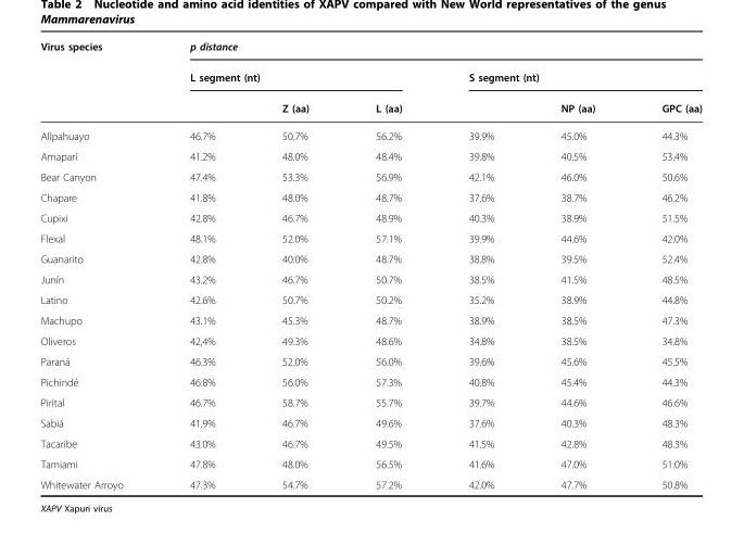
<table><thead><tr><td rowspan="3">Virus species</td><td colspan="6">p distance</td></tr><tr><td colspan="3">L segment (nt)</td><td colspan="3">S segment (nt)</td></tr><tr><td></td><td>Z (aa)</td><td>L (aa)</td><td></td><td>NP (aa)</td><td>GPC (aa)</td></tr></thead><tbody><tr><td>Allpahuayo</td><td>46.7%</td><td>50.7%</td><td>56.2%</td><td>39.9%</td><td>45.0%</td><td>44.3%</td></tr><tr><td>Amaparí</td><td>41.2%</td><td>48.0%</td><td>48.4%</td><td>39.8%</td><td>40.5%</td><td>53.4%</td></tr><tr><td>Bear Canyon</td><td>47.4%</td><td>53.3%</td><td>56.9%</td><td>42.1%</td><td>46.0%</td><td>50.6%</td></tr><tr><td>Chapare</td><td>41.8%</td><td>48.0%</td><td>48.7%</td><td>37.6%</td><td>38.7%</td><td>46.2%</td></tr><tr><td>Cupixi</td><td>42.8%</td><td>46.7%</td><td>48.9%</td><td>40.3%</td><td>38.9%</td><td>51.5%</td></tr><tr><td>Flexal</td><td>48.1%</td><td>52.0%</td><td>57.1%</td><td>39.9%</td><td>44.6%</td><td>42.0%</td></tr><tr><td>Guanarito</td><td>42.8%</td><td>40.0%</td><td>48.7%</td><td>38.8%</td><td>39.5%</td><td>52.4%</td></tr><tr><td>Junín</td><td>43.2%</td><td>46.7%</td><td>50.7%</td><td>38.5%</td><td>41.5%</td><td>48.5%</td></tr><tr><td>Latino</td><td>42.6%</td><td>50.7%</td><td>50.2%</td><td>35.2%</td><td>38.9%</td><td>44.8%</td></tr><tr><td>Machupo</td><td>43.1%</td><td>45.3%</td><td>48.7%</td><td>38.9%</td><td>38.5%</td><td>47.3%</td></tr><tr><td>Oliveros</td><td>42,4%</td><td>49.3%</td><td>48.6%</td><td>34.8%</td><td>38.5%</td><td>34.8%</td></tr><tr><td>Paraná</td><td>46.3%</td><td>52.0%</td><td>56.0%</td><td>39.6%</td><td>45.6%</td><td>45.5%</td></tr><tr><td>Pichindé</td><td>46.8%</td><td>56.0%</td><td>57.3%</td><td>40.8%</td><td>45.4%</td><td>44.3%</td></tr><tr><td>Pirital</td><td>46.7%</td><td>58.7%</td><td>55.7%</td><td>39.7%</td><td>44.6%</td><td>46.6%</td></tr><tr><td>Sabiá</td><td>41.9%</td><td>46.7%</td><td>49.6%</td><td>37.6%</td><td>40.3%</td><td>48.3%</td></tr><tr><td>Tacaribe</td><td>43.0%</td><td>46.7%</td><td>49.5%</td><td>41.5%</td><td>42.8%</td><td>48.3%</td></tr><tr><td>Tamiami</td><td>47.8%</td><td>48.0%</td><td>56.5%</td><td>41.6%</td><td>47.0%</td><td>51.0%</td></tr><tr><td>Whitewater Arroyo</td><td>47.3%</td><td>54.7%</td><td>57.2%</td><td>42.0%</td><td>47.7%</td><td>50.8%</td></tr></tbody></table>